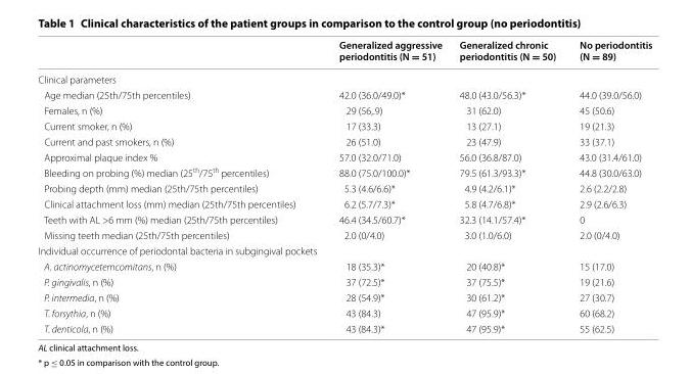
<table><thead><tr><td></td><td>Generalized aggressive periodontitis (N = 51)</td><td>Generalized chronic periodontitis (N = 50)</td><td>No periodontitis (N = 89)</td></tr></thead><tbody><tr><td colspan="4">Clinical parameters</td></tr><tr><td>Age median (25th/75th percentiles)</td><td>42.0 (36.0/49.0)*</td><td>48.0 (43.0/56.3)*</td><td>44.0 (39.0/56.0)</td></tr><tr><td>Females, n (%)</td><td>29 (56,.9)</td><td>31 (62.0)</td><td>45 (50.6)</td></tr><tr><td>Current smoker, n (%)</td><td>17 (33.3)</td><td>13 (27.1)</td><td>19 (21.3)</td></tr><tr><td>Current and past smokers, n (%)</td><td>26 (51.0)</td><td>23 (47.9)</td><td>33 (37.1)</td></tr><tr><td>Approximal plaque index %</td><td>57.0 (32.0/71.0)</td><td>56.0 (36.8/87.0)</td><td>43.0 (31.4/61.0)</td></tr><tr><td>Bleeding on probing (%) median (25<sup>th</sup>/75<sup>th</sup> percentiles)</td><td>88.0 (75.0/100.0)*</td><td>79.5 (61.3/93.3)*</td><td>44.8 (30.0/63.0)</td></tr><tr><td>Probing depth (mm) median (25th/75th percentiles)</td><td>5.3 (4.6/6.6)*</td><td>4.9 (4.2/6.1)*</td><td>2.6 (2.2/2.8)</td></tr><tr><td>Clinical attachment loss (mm) median (25th/75th percentiles)</td><td>6.2 (5.7/7.3)*</td><td>5.8 (4.7/6.8)*</td><td>2.9 (2.6/6.3)</td></tr><tr><td>Teeth with AL &gt;6 mm (%) median (25th/75th percentiles)</td><td>46.4 (34.5/60.7)*</td><td>32.3 (14.1/57.4)*</td><td>0</td></tr><tr><td>Missing teeth median (25th/75th percentiles)</td><td>2.0 (0/4.0)</td><td>3.0 (1.0/6.0)</td><td>2.0 (0/4.0)</td></tr><tr><td colspan="4">Individual occurrence of periodontal bacteria in subgingival pockets</td></tr><tr><td>A. actinomycetemcomitans, n (%)</td><td>18 (35.3)*</td><td>20 (40.8)*</td><td>15 (17.0)</td></tr><tr><td>P. gingivalis, n (%)</td><td>37 (72.5)*</td><td>37 (75.5)*</td><td>19 (21.6)</td></tr><tr><td>P. intermedia, n (%)</td><td>28 (54.9)*</td><td>30 (61.2)*</td><td>27 (30.7)</td></tr><tr><td>T. forsythia, n (%)</td><td>43 (84.3)</td><td>47 (95.9)*</td><td>60 (68.2)</td></tr><tr><td>T. denticola, n (%)</td><td>43 (84.3)*</td><td>47 (95.9)*</td><td>55 (62.5)</td></tr></tbody></table>